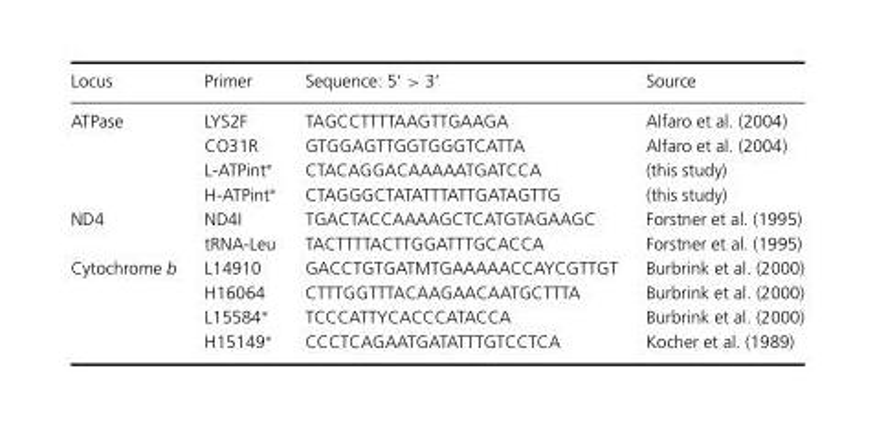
<table><thead><tr><td>Locus</td><td>Primer</td><td>Sequence: 5’ &gt; 3’</td><td>Source</td></tr></thead><tbody><tr><td rowspan="4">ATPase</td><td>LYS2F</td><td>TAGCCTTTTAAGTTGAAGA</td><td>Alfaro et al. (2004)</td></tr><tr><td>CO31R</td><td>GTGGAGTTGGTGGGTCATTA</td><td>Alfaro et al. (2004)</td></tr><tr><td>L-ATPint∗</td><td>CTACAGGACAAAAATGATCCA</td><td>(this study)</td></tr><tr><td>H-ATPint∗</td><td>CTAGGGCTATATTTATTGATAGTTG</td><td>(this study)</td></tr><tr><td rowspan="2">ND4</td><td>ND4I</td><td>TGACTACCAAAAGCTCATGTAGAAGC</td><td>Forstner et al. (1995)</td></tr><tr><td>tRNA-Leu</td><td>TACTTTTACTTGGATTTGCACCA</td><td>Forstner et al. (1995)</td></tr><tr><td rowspan="4">Cytochrome b</td><td>L14910</td><td>GACCTGTGATMTGAAAAACCAYCGTTGT</td><td>Burbrink et al. (2000)</td></tr><tr><td>H16064</td><td>CTTTGGTTTACAAGAACAATGCTTTA</td><td>Burbrink et al. (2000)</td></tr><tr><td>L15584∗</td><td>TCCCATTYCACCCATACCA</td><td>Burbrink et al. (2000)</td></tr><tr><td>H15149∗</td><td>CCCTCAGAATGATATTTGTCCTCA</td><td>Kocher et al. (1989)</td></tr></tbody></table>